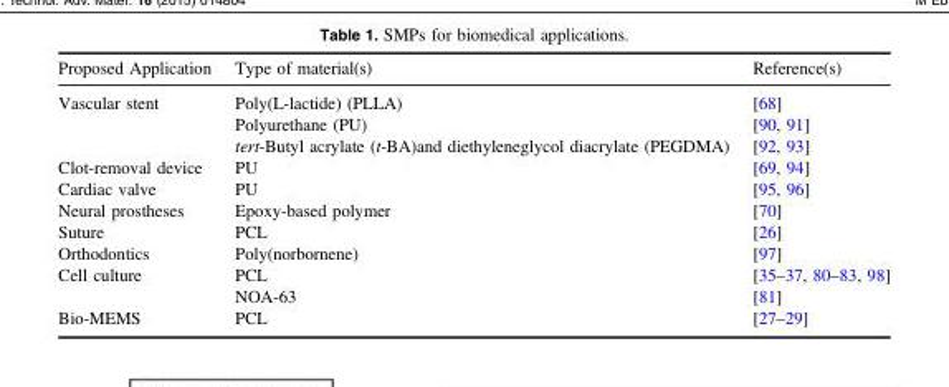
<table><thead><tr><td>Proposed Application</td><td>Type of material(s)</td><td>Reference(s)</td></tr></thead><tbody><tr><td rowspan="3">Vascular stent</td><td>Poly(L-lactide) (PLLA)</td><td>[68]</td></tr><tr><td>Polyurethane (PU)</td><td>[90, 91]</td></tr><tr><td>tert-Butyl acrylate (t-BA)and diethyleneglycol diacrylate (PEGDMA)</td><td>[92, 93]</td></tr><tr><td>Clot-removal device</td><td>PU</td><td>[69, 94]</td></tr><tr><td>Cardiac valve</td><td>PU</td><td>[95, 96]</td></tr><tr><td>Neural prostheses</td><td>Epoxy-based polymer</td><td>[70]</td></tr><tr><td>Suture</td><td>PCL</td><td>[26]</td></tr><tr><td>Orthodontics</td><td>Poly(norbornene)</td><td>[97]</td></tr><tr><td rowspan="2">Cell culture</td><td>PCL</td><td>[35–37, 80–83, 98]</td></tr><tr><td>NOA-63</td><td>[81]</td></tr><tr><td>Bio-MEMS</td><td>PCL</td><td>[27–29]</td></tr></tbody></table>